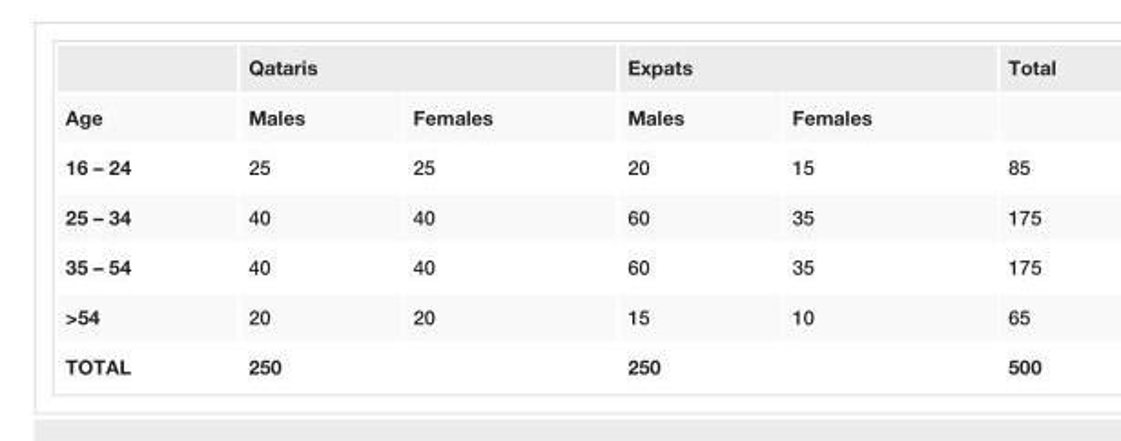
<table><thead><tr><td rowspan="2">Age</td><td colspan="2">Qataris</td><td colspan="2">Expats</td><td rowspan="2">Total</td></tr><tr><td>Males</td><td>Females</td><td>Males</td><td>Females</td></tr></thead><tbody><tr><td>16 – 24</td><td>25</td><td>25</td><td>20</td><td>15</td><td>85</td></tr><tr><td>25 – 34</td><td>40</td><td>40</td><td>60</td><td>35</td><td>175</td></tr><tr><td>35 – 54</td><td>40</td><td>40</td><td>60</td><td>35</td><td>175</td></tr><tr><td>&gt;54</td><td>20</td><td>20</td><td>15</td><td>10</td><td>65</td></tr><tr><td>TOTAL</td><td colspan="2">250</td><td colspan="2">250</td><td>500</td></tr></tbody></table>